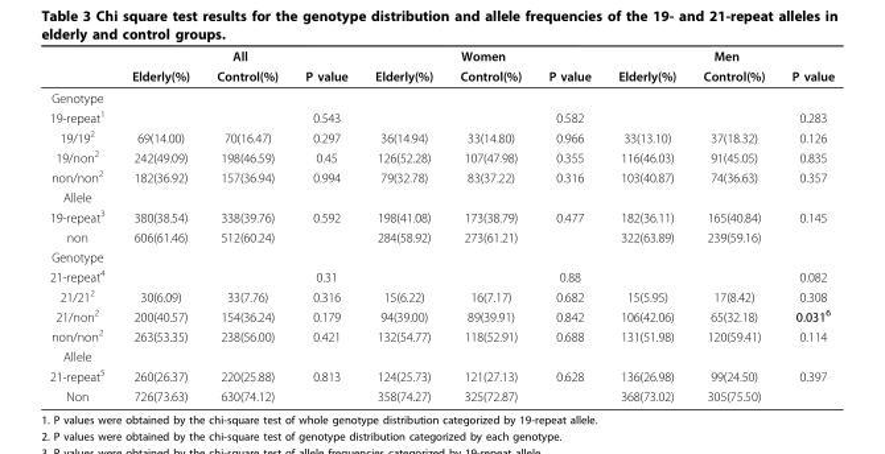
<table><thead><tr><td rowspan="2"></td><td colspan="3">All</td><td colspan="3">Women</td><td colspan="3">Men</td></tr><tr><td>Elderly(%)</td><td>Control(%)</td><td>P value</td><td>Elderly(%)</td><td>Control(%)</td><td>P value</td><td>Elderly(%)</td><td>Control(%)</td><td>P value</td></tr></thead><tbody><tr><td colspan="10">Genotype</td></tr><tr><td>19-repeat<sup>1</sup></td><td></td><td></td><td>0.543</td><td></td><td></td><td>0.582</td><td></td><td></td><td>0.283</td></tr><tr><td>19/19<sup>2</sup></td><td>69(14.00)</td><td>70(16.47)</td><td>0.297</td><td>36(14.94)</td><td>33(14.80)</td><td>0.966</td><td>33(13.10)</td><td>37(18.32)</td><td>0.126</td></tr><tr><td>19/non<sup>2</sup></td><td>242(49.09)</td><td>198(46.59)</td><td>0.45</td><td>126(52.28)</td><td>107(47.98)</td><td>0.355</td><td>116(46.03)</td><td>91(45.05)</td><td>0.835</td></tr><tr><td>non/non<sup>2</sup></td><td>182(36.92)</td><td>157(36.94)</td><td>0.994</td><td>79(32.78)</td><td>83(37.22)</td><td>0.316</td><td>103(40.87)</td><td>74(36.63)</td><td>0.357</td></tr><tr><td colspan="10">Allele</td></tr><tr><td>19-repeat<sup>3</sup></td><td>380(38.54)</td><td>338(39.76)</td><td>0.592</td><td>198(41.08)</td><td>173(38.79)</td><td>0.477</td><td>182(36.11)</td><td>165(40.84)</td><td>0.145</td></tr><tr><td>non</td><td>606(61.46)</td><td>512(60.24)</td><td></td><td>284(58.92)</td><td>273(61.21)</td><td></td><td>322(63.89)</td><td>239(59.16)</td><td></td></tr><tr><td colspan="10">Genotype</td></tr><tr><td>21-repeat<sup>4</sup></td><td></td><td></td><td>0.31</td><td></td><td></td><td>0.88</td><td></td><td></td><td>0.082</td></tr><tr><td>21/21<sup>2</sup></td><td>30(6.09)</td><td>33(7.76)</td><td>0.316</td><td>15(6.22)</td><td>16(7.17)</td><td>0.682</td><td>15(5.95)</td><td>17(8.42)</td><td>0.308</td></tr><tr><td>21/non<sup>2</sup></td><td>200(40.57)</td><td>154(36.24)</td><td>0.179</td><td>94(39.00)</td><td>89(39.91)</td><td>0.842</td><td>106(42.06)</td><td>65(32.18)</td><td>0.031<sup>6</sup></td></tr><tr><td>non/non<sup>2</sup></td><td>263(53.35)</td><td>238(56.00)</td><td>0.421</td><td>132(54.77)</td><td>118(52.91)</td><td>0.688</td><td>131(51.98)</td><td>120(59.41)</td><td>0.114</td></tr><tr><td colspan="10">Allele</td></tr><tr><td>21-repeat<sup>5</sup></td><td>260(26.37)</td><td>220(25.88)</td><td>0.813</td><td>124(25.73)</td><td>121(27.13)</td><td>0.628</td><td>136(26.98)</td><td>99(24.50)</td><td>0.397</td></tr><tr><td>Non</td><td>726(73.63)</td><td>630(74.12)</td><td></td><td>358(74.27)</td><td>325(72.87)</td><td></td><td>368(73.02)</td><td>305(75.50)</td><td></td></tr></tbody></table>